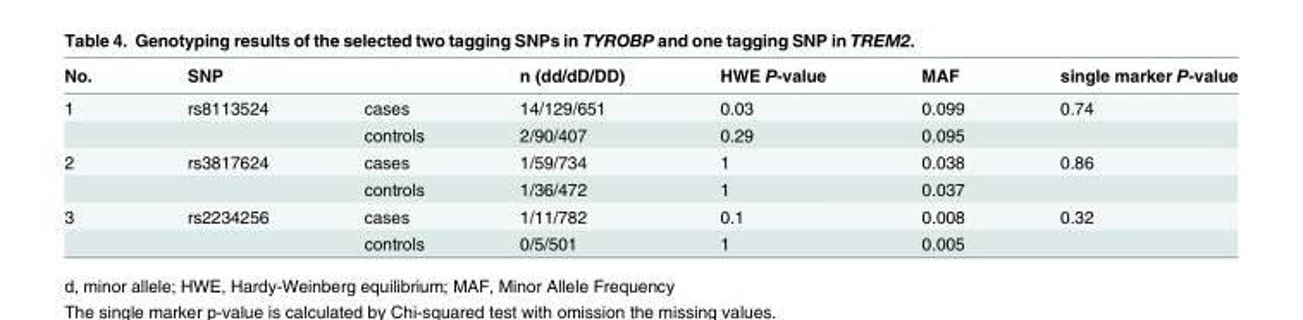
<table><thead><tr><td>No.</td><td>SNP</td><td></td><td>n (dd/dD/DD)</td><td>HWE P-value</td><td>MAF</td><td>single marker P-value</td></tr></thead><tbody><tr><td rowspan="2">1</td><td>rs8113524</td><td>cases</td><td>14/129/651</td><td>0.03</td><td>0.099</td><td>0.74</td></tr><tr><td></td><td>controls</td><td>2/90/407</td><td>0.29</td><td>0.095</td><td></td></tr><tr><td rowspan="2">2</td><td>rs3817624</td><td>cases</td><td>1/59/734</td><td>1</td><td>0.038</td><td>0.86</td></tr><tr><td></td><td>controls</td><td>1/36/472</td><td>1</td><td>0.037</td><td></td></tr><tr><td rowspan="2">3</td><td>rs2234256</td><td>cases</td><td>1/11/782</td><td>0.1</td><td>0.008</td><td>0.32</td></tr><tr><td></td><td>controls</td><td>0/5/501</td><td>1</td><td>0.005</td><td></td></tr></tbody></table>